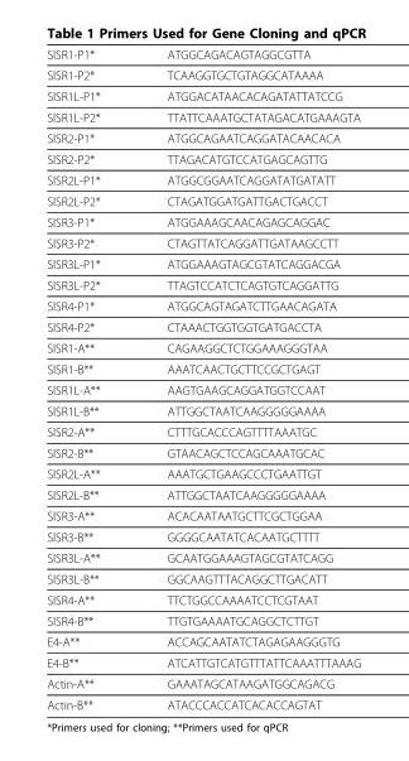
<table><thead><tr><td>SlSR1-P1*</td><td>ATGGCAGACAGTAGGCGTTA</td></tr></thead><tbody><tr><td>SlSR1-P2*</td><td>TCAAGGTGCTGTAGGCATAAAA</td></tr><tr><td>SlSR1L-P1*</td><td>ATGGACATAACACAGATATTATCCG</td></tr><tr><td>SlSR1L-P2*</td><td>TTATTCAAATGCTATAGACATGAAAGTA</td></tr><tr><td>SlSR2-P1*</td><td>ATGGCAGAATCAGGATACAACACA</td></tr><tr><td>SlSR2-P2*</td><td>TTAGACATGTCCATGAGCAGTTG</td></tr><tr><td>SlSR2L-P1*</td><td>ATGGCGGAATCAGGATATGATATT</td></tr><tr><td>SlSR2L-P2*</td><td>CTAGATGGATGATTGACTGACCT</td></tr><tr><td>SlSR3-P1*</td><td>ATGGAAAGCAACAGAGCAGGAC</td></tr><tr><td>SlSR3-P2*</td><td>CTAGTTATCAGGATTGATAAGCCTT</td></tr><tr><td>SlSR3L-P1*</td><td>ATGGAAAGTAGCGTATCAGGACGA</td></tr><tr><td>SlSR3L-P2*</td><td>TTAGTCCATCTCAGTGTCAGGATTG</td></tr><tr><td>SlSR4-P1*</td><td>ATGGCAGTAGATCTTGAACAGATA</td></tr><tr><td>SlSR4-P2*</td><td>CTAAACTGGTGGTGATGACCTA</td></tr><tr><td>SlSR1-A**</td><td>CAGAAGGCTCTGGAAAGGGTAA</td></tr><tr><td>SlSR1-B**</td><td>AAATCAACTGCTTCCGCTGAGT</td></tr><tr><td>SlSR1L-A**</td><td>AAGTGAAGCAGGATGGTCCAAT</td></tr><tr><td>SlSR1L-B**</td><td>ATTGGCTAATCAAGGGGGAAAA</td></tr><tr><td>SlSR2-A**</td><td>CTTTGCACCCAGTTTTAAATGC</td></tr><tr><td>SlSR2-B**</td><td>GTAACAGCTCCAGCAAATGCAC</td></tr><tr><td>SlSR2L-A**</td><td>AAATGCTGAAGCCCTGAATTGT</td></tr><tr><td>SlSR2L-B**</td><td>ATTGGCTAATCAAGGGGGAAAA</td></tr><tr><td>SlSR3-A**</td><td>ACACAATAATGCTTCGCTGGAA</td></tr><tr><td>SlSR3-B**</td><td>GGGGCAATATCACAATGCTTTT</td></tr><tr><td>SlSR3L-A**</td><td>GCAATGGAAAGTAGCGTATCAGG</td></tr><tr><td>SlSR3L-B**</td><td>GGCAAGTTTACAGGCTTGACATT</td></tr><tr><td>SlSR4-A**</td><td>TTCTGGCCAAAATCCTCGTAAT</td></tr><tr><td>SlSR4-B**</td><td>TTGTGAAAATGCAGGCTCTTGT</td></tr><tr><td>E4-A**</td><td>ACCAGCAATATCTAGAGAAGGGTG</td></tr><tr><td>E4-B**</td><td>ATCATTGTCATGTTTATTCAAATTTAAAG</td></tr><tr><td>Actin-A**</td><td>GAAATAGCATAAGATGGCAGACG</td></tr><tr><td>Actin-B**</td><td>ATACCCACCATCACACCAGTAT</td></tr></tbody></table>